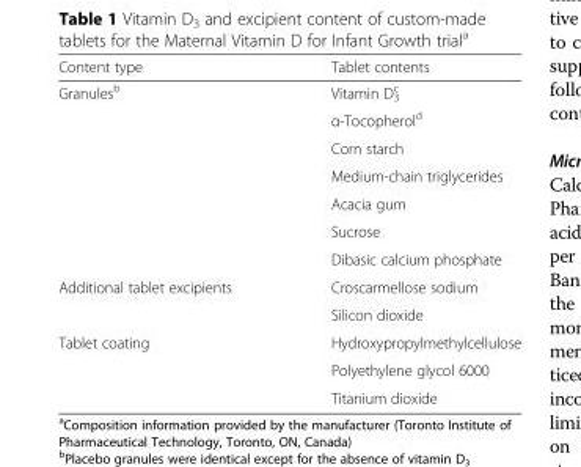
<table><thead><tr><td>Content type</td><td>Tablet contents</td></tr></thead><tbody><tr><td rowspan="7">Granules<sup>b</sup></td><td>Vitamin D<sub>3</sub> <sup>c</sup></td></tr><tr><td>α-Tocopherol<sup>d</sup></td></tr><tr><td>Corn starch</td></tr><tr><td>Medium-chain triglycerides</td></tr><tr><td>Acacia gum</td></tr><tr><td>Sucrose</td></tr><tr><td>Dibasic calcium phosphate</td></tr><tr><td rowspan="2">Additional tablet excipients</td><td>Croscarmellose sodium</td></tr><tr><td>Silicon dioxide</td></tr><tr><td rowspan="3">Tablet coating</td><td>Hydroxypropylmethylcellulose</td></tr><tr><td>Polyethylene glycol 6000</td></tr><tr><td>Titanium dioxide</td></tr></tbody></table>